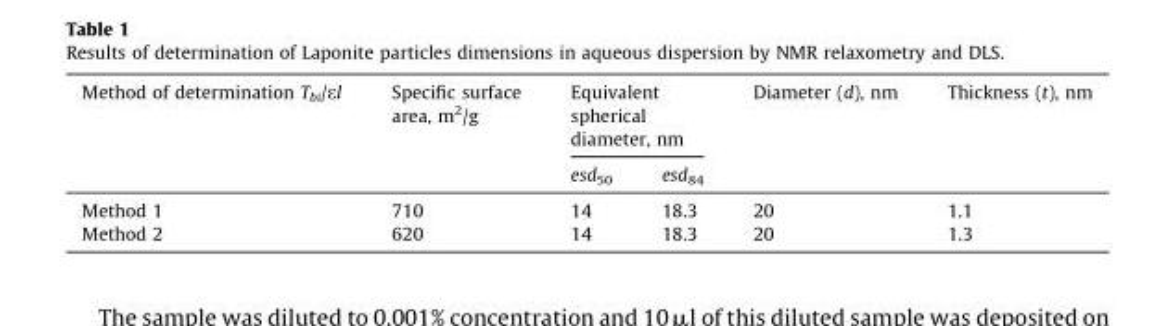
<table><thead><tr><td rowspan="2">Method of determination Tbi/el</td><td rowspan="2">Specific surface area, m<sup>2</sup>/g</td><td colspan="2">Equivalent spherical diameter, nm</td><td rowspan="2">Diameter (d), nm</td><td rowspan="2">Thickness (t), nm</td></tr><tr><td>esd<sub>50</sub></td><td>esd<sub>84</sub></td></tr></thead><tbody><tr><td>Method 1</td><td>710</td><td>14</td><td>18.3</td><td>20</td><td>1.1</td></tr><tr><td>Method 2</td><td>620</td><td>14</td><td>18.3</td><td>20</td><td>1.3</td></tr></tbody></table>